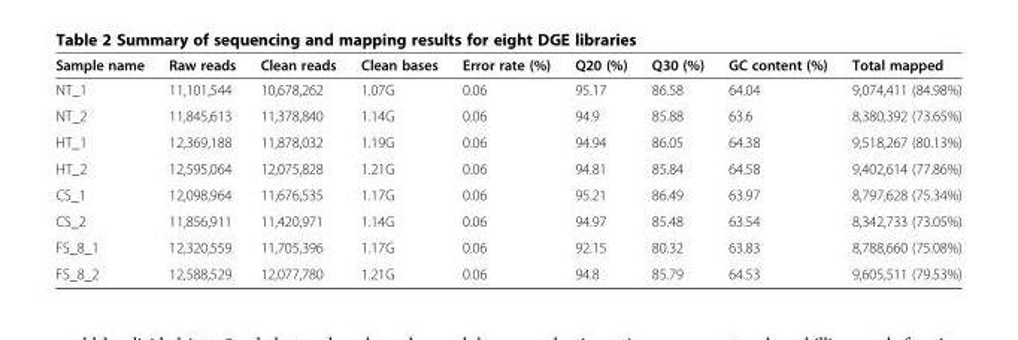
<table><thead><tr><td>Sample name</td><td>Raw reads</td><td>Clean reads</td><td>Clean bases</td><td>Error rate (%)</td><td>Q20 (%)</td><td>Q30 (%)</td><td>GC content (%)</td><td>Total mapped</td></tr></thead><tbody><tr><td>NT_1</td><td>11,101,544</td><td>10,678,262</td><td>1.07G</td><td>0.06</td><td>95.17</td><td>86.58</td><td>64.04</td><td>9,074,411 (84.98%)</td></tr><tr><td>NT_2</td><td>11,845,613</td><td>11,378,840</td><td>1.14G</td><td>0.06</td><td>94.9</td><td>85.88</td><td>63.6</td><td>8,380,392 (73.65%)</td></tr><tr><td>HT_1</td><td>12,369,188</td><td>11,878,032</td><td>1.19G</td><td>0.06</td><td>94.94</td><td>86.05</td><td>64.38</td><td>9,518,267 (80.13%)</td></tr><tr><td>HT_2</td><td>12,595,064</td><td>12,075,828</td><td>1.21G</td><td>0.06</td><td>94.81</td><td>85.84</td><td>64.58</td><td>9,402,614 (77.86%)</td></tr><tr><td>CS_1</td><td>12,098,964</td><td>11,676,535</td><td>1.17G</td><td>0.06</td><td>95.21</td><td>86.49</td><td>63.97</td><td>8,797,628 (75.34%)</td></tr><tr><td>CS_2</td><td>11,856,911</td><td>11,420,971</td><td>1.14G</td><td>0.06</td><td>94.97</td><td>85.48</td><td>63.54</td><td>8,342,733 (73.05%)</td></tr><tr><td>FS_8_1</td><td>12,320,559</td><td>11,705,396</td><td>1.17G</td><td>0.06</td><td>92.15</td><td>80.32</td><td>63.83</td><td>8,788,660 (75.08%)</td></tr><tr><td>FS_8_2</td><td>12,588,529</td><td>12,077,780</td><td>1.21G</td><td>0.06</td><td>94.8</td><td>85.79</td><td>64.53</td><td>9,605,511 (79.53%)</td></tr></tbody></table>